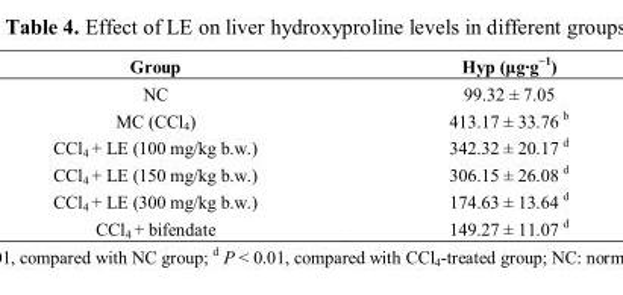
<table><thead><tr><td>Group</td><td>Hyp (μg·g<sup>−1</sup>)</td></tr></thead><tbody><tr><td>NC</td><td>99.32 ± 7.05</td></tr><tr><td>MC (CCl<sub>4</sub>)</td><td>413.17 ± 33.76 b</td></tr><tr><td>CCl<sub>4</sub> + LE (100 mg/kg b.w.)</td><td>342.32 ± 20.17 d</td></tr><tr><td>CCl<sub>4</sub> + LE (150 mg/kg b.w.)</td><td>306.15 ± 26.08 d</td></tr><tr><td>CCl<sub>4</sub> + LE (300 mg/kg b.w.)</td><td>174.63 ± 13.64 d</td></tr><tr><td>CCl<sub>4</sub> + bifendate</td><td>149.27 ± 11.07 d</td></tr></tbody></table>